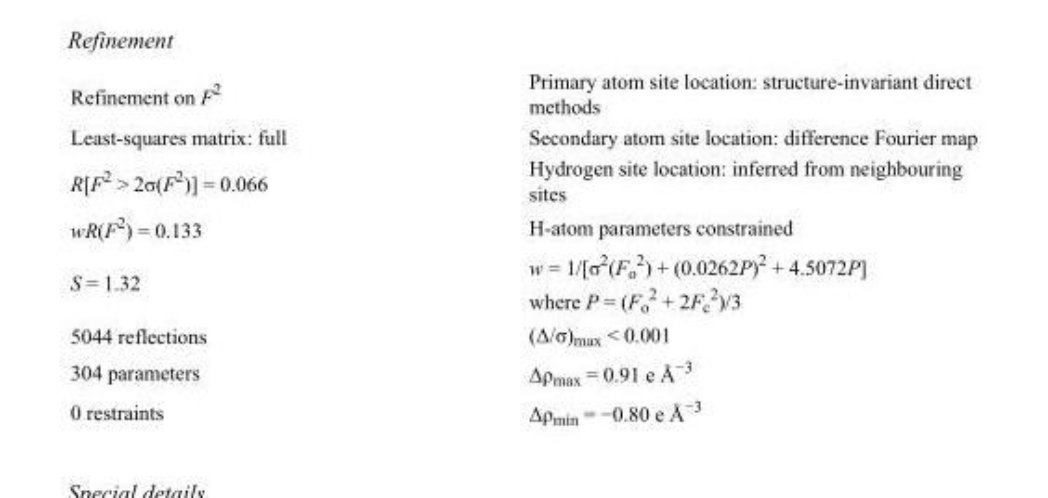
<table><tbody><tr><td>Refinement on F<sup>2</sup></td><td>Primary atom site location: structure-invariant direct methods</td></tr><tr><td>Least-squares matrix: full</td><td>Secondary atom site location: difference Fourier map</td></tr><tr><td>R[F<sup>2</sup> &gt; 2σ(F<sup>2</sup>)] = 0.066</td><td>Hydrogen site location: inferred from neighbouring sites</td></tr><tr><td>wR(F<sup>2</sup>) = 0.133</td><td>H-atom parameters constrained</td></tr><tr><td>S = 1.32</td><td>w = 1/[σ<sup>2</sup>(F<sub>o</sub> <sup>2</sup>) + (0.0262P)<sup>2</sup> + 4.5072P] where P = (F<sub>o</sub> <sup>2</sup> + 2F<sub>c</sub> <sup>2</sup>)/3</td></tr><tr><td>5044 reflections</td><td>(Δ/σ)<sub>max</sub> &lt; 0.001</td></tr><tr><td>304 parameters</td><td>Δρ<sub>max</sub> = 0.91 e Å<sup>−3</sup></td></tr><tr><td>0 restraints</td><td>Δρ<sub>min</sub> = −0.80 e Å<sup>−3</sup></td></tr></tbody></table>